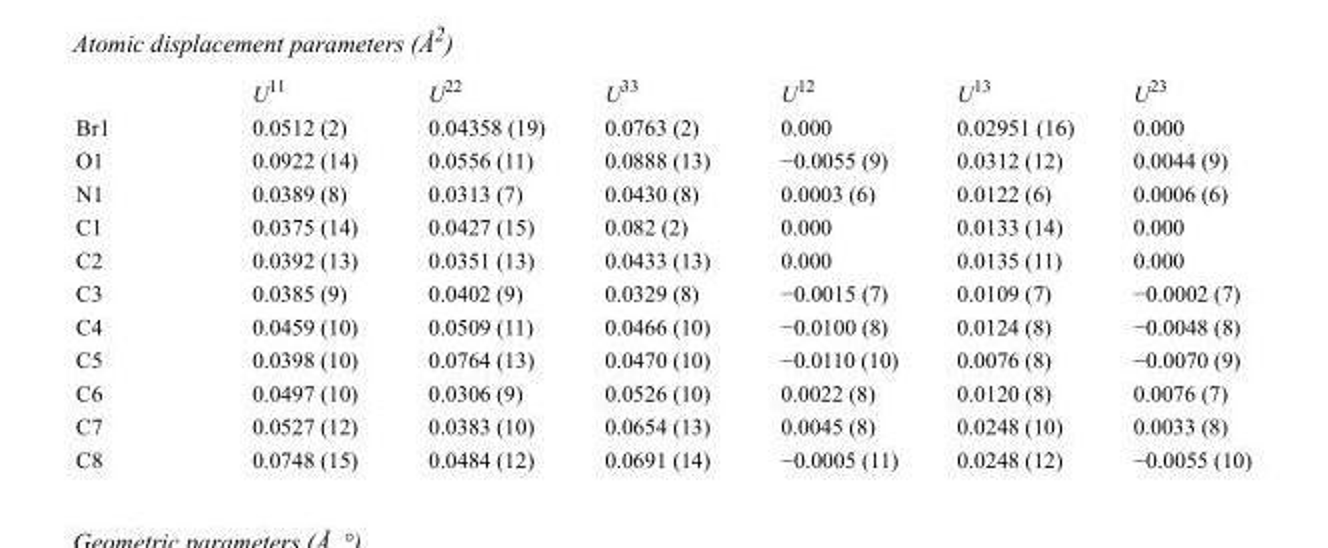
<table><thead><tr><td></td><td>U<sup>11</sup></td><td>U<sup>22</sup></td><td>U<sup>33</sup></td><td>U<sup>12</sup></td><td>U<sup>13</sup></td><td>U<sup>23</sup></td></tr></thead><tbody><tr><td>Br1</td><td>0.0512 (2)</td><td>0.04358 (19)</td><td>0.0763 (2)</td><td>0.000</td><td>0.02951 (16)</td><td>0.000</td></tr><tr><td>O1</td><td>0.0922 (14)</td><td>0.0556 (11)</td><td>0.0888 (13)</td><td>−0.0055 (9)</td><td>0.0312 (12)</td><td>0.0044 (9)</td></tr><tr><td>N1</td><td>0.0389 (8)</td><td>0.0313 (7)</td><td>0.0430 (8)</td><td>0.0003 (6)</td><td>0.0122 (6)</td><td>0.0006 (6)</td></tr><tr><td>C1</td><td>0.0375 (14)</td><td>0.0427 (15)</td><td>0.082 (2)</td><td>0.000</td><td>0.0133 (14)</td><td>0.000</td></tr><tr><td>C2</td><td>0.0392 (13)</td><td>0.0351 (13)</td><td>0.0433 (13)</td><td>0.000</td><td>0.0135 (11)</td><td>0.000</td></tr><tr><td>C3</td><td>0.0385 (9)</td><td>0.0402 (9)</td><td>0.0329 (8)</td><td>−0.0015 (7)</td><td>0.0109 (7)</td><td>−0.0002 (7)</td></tr><tr><td>C4</td><td>0.0459 (10)</td><td>0.0509 (11)</td><td>0.0466 (10)</td><td>−0.0100 (8)</td><td>0.0124 (8)</td><td>−0.0048 (8)</td></tr><tr><td>C5</td><td>0.0398 (10)</td><td>0.0764 (13)</td><td>0.0470 (10)</td><td>−0.0110 (10)</td><td>0.0076 (8)</td><td>−0.0070 (9)</td></tr><tr><td>C6</td><td>0.0497 (10)</td><td>0.0306 (9)</td><td>0.0526 (10)</td><td>0.0022 (8)</td><td>0.0120 (8)</td><td>0.0076 (7)</td></tr><tr><td>C7</td><td>0.0527 (12)</td><td>0.0383 (10)</td><td>0.0654 (13)</td><td>0.0045 (8)</td><td>0.0248 (10)</td><td>0.0033 (8)</td></tr><tr><td>C8</td><td>0.0748 (15)</td><td>0.0484 (12)</td><td>0.0691 (14)</td><td>−0.0005 (11)</td><td>0.0248 (12)</td><td>−0.0055 (10)</td></tr></tbody></table>